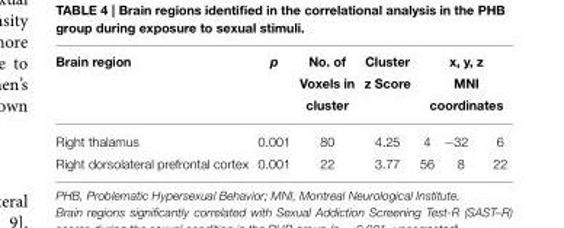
<table><thead><tr><td rowspan="2">Brain region Right thalamus</td><td rowspan="2">p 0.001</td><td rowspan="2">No. of Voxels in cluster 80</td><td rowspan="2">Cluster z Score 4.25</td><td colspan="3">x, y, z MNI coordinates</td></tr><tr><td>4</td><td>−32</td><td>6</td></tr></thead><tbody><tr><td>Right dorsolateral prefrontal cortex</td><td>0.001</td><td>22</td><td>3.77</td><td>56</td><td>8</td><td>22</td></tr></tbody></table>